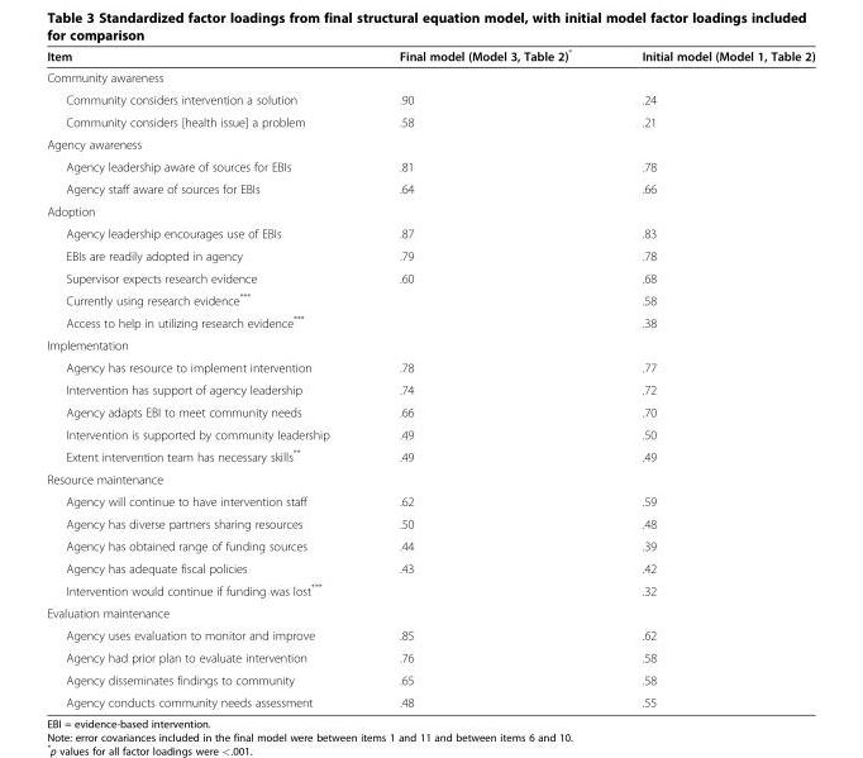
<table><thead><tr><td>Item</td><td>Final model (Model 3, Table 2)*</td><td>Initial model (Model 1, Table 2)</td></tr></thead><tbody><tr><td colspan="3">Community awareness</td></tr><tr><td>Community considers intervention a solution</td><td>.90</td><td>.24</td></tr><tr><td>Community considers [health issue] a problem</td><td>.58</td><td>.21</td></tr><tr><td colspan="3">Agency awareness</td></tr><tr><td>Agency leadership aware of sources for EBIs</td><td>.81</td><td>.78</td></tr><tr><td>Agency staff aware of sources for EBIs</td><td>.64</td><td>.66</td></tr><tr><td colspan="3">Adoption</td></tr><tr><td>Agency leadership encourages use of EBIs</td><td>.87</td><td>.83</td></tr><tr><td>EBIs are readily adopted in agency</td><td>.79</td><td>.78</td></tr><tr><td>Supervisor expects research evidence</td><td>.60</td><td>.68</td></tr><tr><td>Currently using research evidence***</td><td></td><td>.58</td></tr><tr><td>Access to help in utilizing research evidence***</td><td></td><td>.38</td></tr><tr><td colspan="3">Implementation</td></tr><tr><td>Agency has resource to implement intervention</td><td>.78</td><td>.77</td></tr><tr><td>Intervention has support of agency leadership</td><td>.74</td><td>.72</td></tr><tr><td>Agency adapts EBI to meet community needs</td><td>.66</td><td>.70</td></tr><tr><td>Intervention is supported by community leadership</td><td>.49</td><td>.50</td></tr><tr><td>Extent intervention team has necessary skills**</td><td>.49</td><td>.49</td></tr><tr><td colspan="3">Resource maintenance</td></tr><tr><td>Agency will continue to have intervention staff</td><td>.62</td><td>.59</td></tr><tr><td>Agency has diverse partners sharing resources</td><td>.50</td><td>.48</td></tr><tr><td>Agency has obtained range of funding sources</td><td>.44</td><td>.39</td></tr><tr><td>Agency has adequate fiscal policies</td><td>.43</td><td>.42</td></tr><tr><td>Intervention would continue if funding was lost***</td><td></td><td>.32</td></tr><tr><td colspan="3">Evaluation maintenance</td></tr><tr><td>Agency uses evaluation to monitor and improve</td><td>.85</td><td>.62</td></tr><tr><td>Agency had prior plan to evaluate intervention</td><td>.76</td><td>.58</td></tr><tr><td>Agency disseminates findings to community</td><td>.65</td><td>.58</td></tr><tr><td>Agency conducts community needs assessment</td><td>.48</td><td>.55</td></tr></tbody></table>